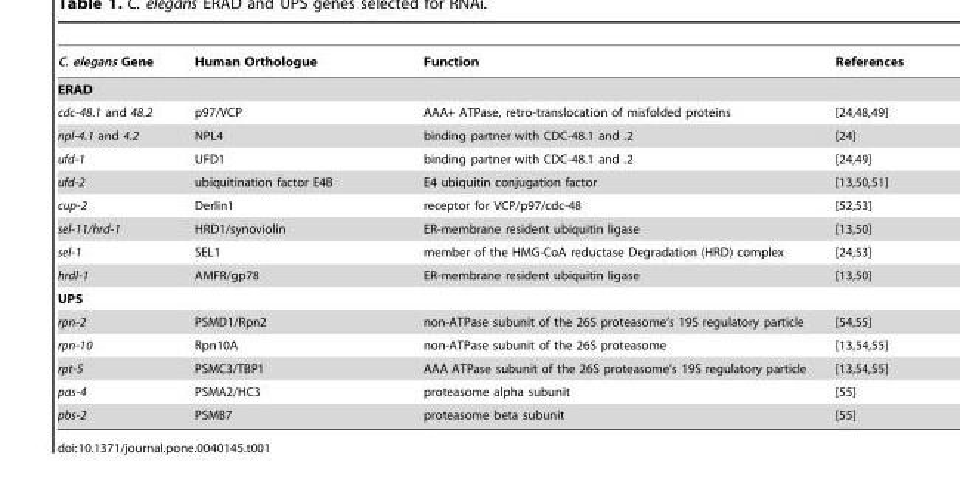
<table><thead><tr><td>C. elegans Gene</td><td>Human Orthologue</td><td>Function</td><td>References</td></tr></thead><tbody><tr><td colspan="4">ERAD</td></tr><tr><td>cdc-48.1 and 48.2</td><td>p97/VCP</td><td>AAA+ ATPase, retro-translocation of misfolded proteins</td><td>[24,48,49]</td></tr><tr><td>npl-4.1 and 4.2</td><td>NPL4</td><td>binding partner with CDC-48.1 and .2</td><td>[24]</td></tr><tr><td>ufd-1</td><td>UFD1</td><td>binding partner with CDC-48.1 and .2</td><td>[24,49]</td></tr><tr><td>ufd-2</td><td>ubiquitination factor E4B</td><td>E4 ubiquitin conjugation factor</td><td>[13,50,51]</td></tr><tr><td>cup-2</td><td>Derlin1</td><td>receptor for VCP/p97/cdc-48</td><td>[52,53]</td></tr><tr><td>sel-11/hrd-1</td><td>HRD1/synoviolin</td><td>ER-membrane resident ubiquitin ligase</td><td>[13,50]</td></tr><tr><td>sel-1</td><td>SEL1</td><td>member of the HMG-CoA reductase Degradation (HRD) complex</td><td>[24,53]</td></tr><tr><td>hrdl-1</td><td>AMFR/gp78</td><td>ER-membrane resident ubiquitin ligase</td><td>[13,50]</td></tr><tr><td colspan="4">UPS</td></tr><tr><td>rpn-2</td><td>PSMD1/Rpn2</td><td>non-ATPase subunit of the 26S proteasome’s 19S regulatory particle</td><td>[54,55]</td></tr><tr><td>rpn-10</td><td>Rpn10A</td><td>non-ATPase subunit of the 26S proteasome</td><td>[13,54,55]</td></tr><tr><td>rpt-5</td><td>PSMC3/TBP1</td><td>AAA ATPase subunit of the 26S proteasome’s 19S regulatory particle</td><td>[13,54,55]</td></tr><tr><td>pas-4</td><td>PSMA2/HC3</td><td>proteasome alpha subunit</td><td>[55]</td></tr><tr><td>pbs-2</td><td>PSMB7</td><td>proteasome beta subunit</td><td>[55]</td></tr></tbody></table>